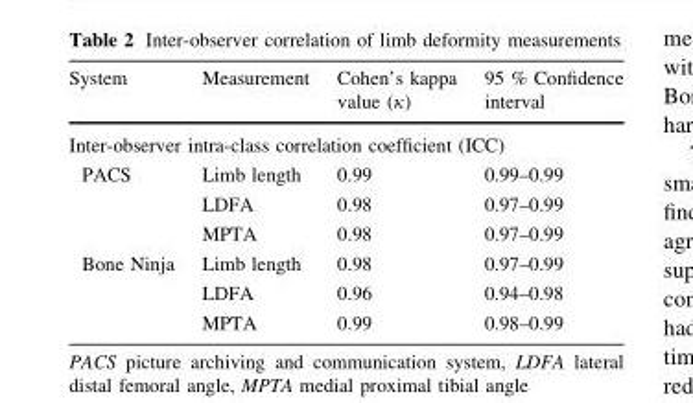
<table><thead><tr><td>System</td><td>Measurement</td><td>Cohen’s kappa value (κ)</td><td>95 % Confidence interval</td></tr></thead><tbody><tr><td colspan="4">Inter-observer intra-class correlation coefficient (ICC)</td></tr><tr><td rowspan="3">PACS</td><td>Limb length</td><td>0.99</td><td>0.99–0.99</td></tr><tr><td>LDFA</td><td>0.98</td><td>0.97–0.99</td></tr><tr><td>MPTA</td><td>0.98</td><td>0.97–0.99</td></tr><tr><td rowspan="3">Bone Ninja</td><td>Limb length</td><td>0.98</td><td>0.97–0.99</td></tr><tr><td>LDFA</td><td>0.96</td><td>0.94–0.98</td></tr><tr><td>MPTA</td><td>0.99</td><td>0.98–0.99</td></tr></tbody></table>